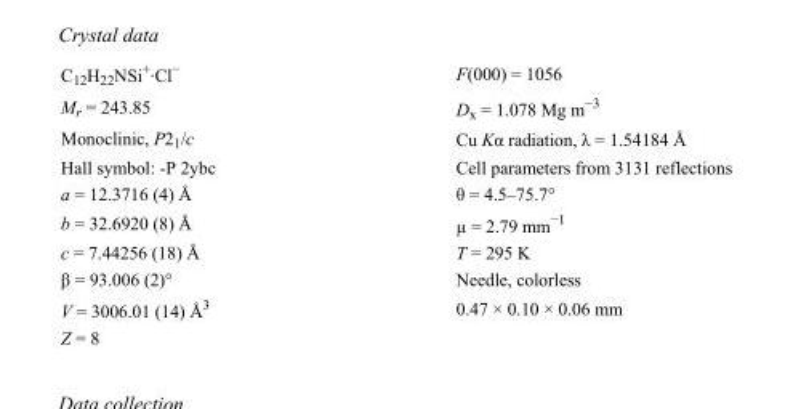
<table><tbody><tr><td>C<sub>12</sub>H<sub>22</sub>NSi<sup>+</sup>·Cl<sup>−</sup></td><td>F(000) = 1056</td></tr><tr><td>M<sub>r</sub> = 243.85</td><td>D<sub>x</sub> = 1.078 Mg m<sup>−3</sup></td></tr><tr><td>Monoclinic, P2<sub>1</sub>/c</td><td>Cu Kα radiation, λ = 1.54184 Å</td></tr><tr><td>Hall symbol: -P 2ybc</td><td>Cell parameters from 3131 reflections</td></tr><tr><td>a = 12.3716 (4) Å</td><td>θ = 4.5–75.7°</td></tr><tr><td>b = 32.6920 (8) Å</td><td>µ = 2.79 mm<sup>−1</sup></td></tr><tr><td>c = 7.44256 (18) Å</td><td>T = 295 K</td></tr><tr><td>β = 93.006 (2)°</td><td>Needle, colorless</td></tr><tr><td>V = 3006.01 (14) Å<sup>3</sup></td><td>0.47 × 0.10 × 0.06 mm</td></tr><tr><td>Z = 8</td><td></td></tr></tbody></table>